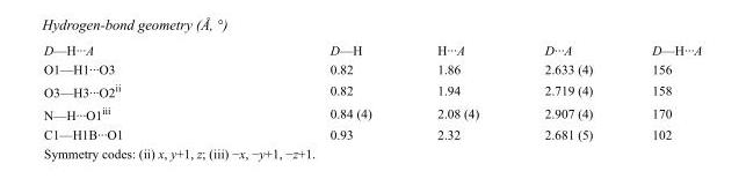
<table><tbody><tr><td>D—H···A</td><td>D—H</td><td>H···A</td><td>D···A</td><td>D—H···A</td></tr><tr><td>O1—H1···O3</td><td>0.82</td><td>1.86</td><td>2.633 (4)</td><td>156</td></tr><tr><td>O3—H3···O2<sup>ii</sup></td><td>0.82</td><td>1.94</td><td>2.719 (4)</td><td>158</td></tr><tr><td>N—H···O1<sup>iii</sup></td><td>0.84 (4)</td><td>2.08 (4)</td><td>2.907 (4)</td><td>170</td></tr><tr><td>C1—H1B···O1</td><td>0.93</td><td>2.32</td><td>2.681 (5)</td><td>102</td></tr></tbody></table>